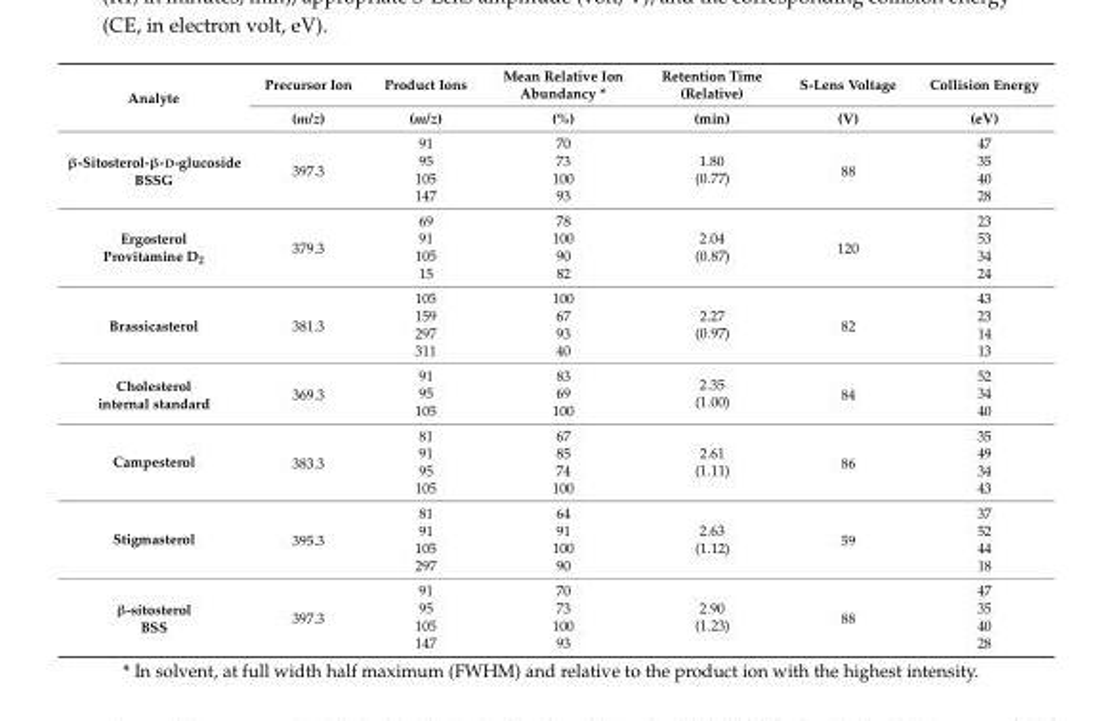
<table><thead><tr><td rowspan="2">Analyte</td><td rowspan="2">Precursor Ion (m/z)</td><td rowspan="2">Product Ions (m/z)</td><td rowspan="2">Mean Relative Ion Abundancy * (%)</td><td rowspan="2">Retention Time (Relative) (min)</td><td rowspan="2">S-Lens Voltage (V)</td><td rowspan="2">Collision Energy (eV)</td></tr><tr></tr></thead><tbody><tr><td rowspan="4">β-Sitosterol-β-D-glucoside BSSG</td><td rowspan="4">397.3</td><td>91</td><td>70</td><td rowspan="4">1.80 (0.77)</td><td rowspan="4">88</td><td>47</td></tr><tr><td>95</td><td>73</td><td>35</td></tr><tr><td>105</td><td>100</td><td>40</td></tr><tr><td>147</td><td>93</td><td>28</td></tr><tr><td rowspan="4">Ergosterol Provitamine D<sub>2</sub></td><td rowspan="4">379.3</td><td>69</td><td>78</td><td rowspan="4">2.04 (0.87)</td><td rowspan="4">120</td><td>23</td></tr><tr><td>91</td><td>100</td><td>53</td></tr><tr><td>105</td><td>90</td><td>34</td></tr><tr><td>15</td><td>82</td><td>24</td></tr><tr><td rowspan="4">Brassicasterol</td><td rowspan="4">381.3</td><td>105</td><td>100</td><td rowspan="4">2.27 (0.97)</td><td rowspan="4">82</td><td>43</td></tr><tr><td>159</td><td>67</td><td>23</td></tr><tr><td>297</td><td>93</td><td>14</td></tr><tr><td>311</td><td>40</td><td>13</td></tr><tr><td rowspan="3">Cholesterol internal standard</td><td rowspan="3">369.3</td><td>91</td><td>83</td><td rowspan="3">2.35 (1.00)</td><td rowspan="3">84</td><td>52</td></tr><tr><td>95</td><td>69</td><td>34</td></tr><tr><td>105</td><td>100</td><td>40</td></tr><tr><td rowspan="4">Campesterol</td><td rowspan="4">383.3</td><td>81</td><td>67</td><td rowspan="4">2.61 (1.11)</td><td rowspan="4">86</td><td>35</td></tr><tr><td>91</td><td>85</td><td>49</td></tr><tr><td>95</td><td>74</td><td>34</td></tr><tr><td>105</td><td>100</td><td>43</td></tr><tr><td rowspan="4">Stigmasterol</td><td rowspan="4">395.3</td><td>81</td><td>64</td><td rowspan="4">2.63 (1.12)</td><td rowspan="4">59</td><td>37</td></tr><tr><td>91</td><td>91</td><td>52</td></tr><tr><td>105</td><td>100</td><td>44</td></tr><tr><td>297</td><td>90</td><td>18</td></tr><tr><td rowspan="4">β-sitosterol BSS</td><td rowspan="4">397.3</td><td>91</td><td>70</td><td rowspan="4">2.90 (1.23)</td><td rowspan="4">88</td><td>47</td></tr><tr><td>95</td><td>73</td><td>35</td></tr><tr><td>105</td><td>100</td><td>40</td></tr><tr><td>147</td><td>93</td><td>28</td></tr></tbody></table>